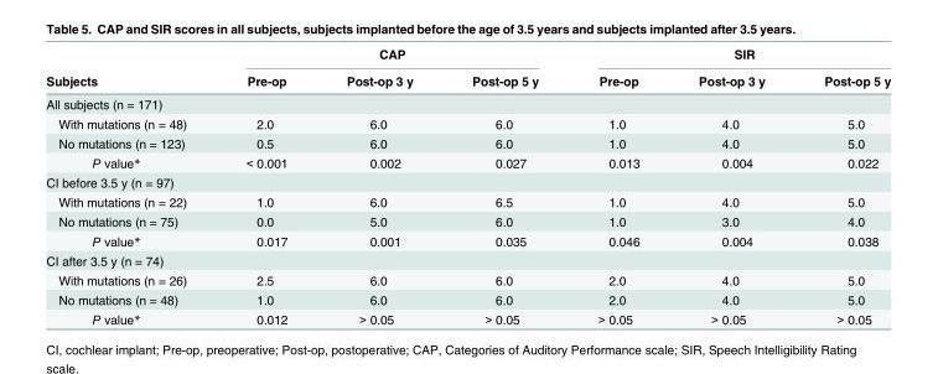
<table><thead><tr><td rowspan="2">Subjects</td><td colspan="3">CAP</td><td colspan="3">SIR</td></tr><tr><td>Pre-op</td><td>Post-op 3 y</td><td>Post-op 5 y</td><td>Pre-op</td><td>Post-op 3 y</td><td>Post-op 5 y</td></tr></thead><tbody><tr><td colspan="7">All subjects (n = 171)</td></tr><tr><td>With mutations (n = 48)</td><td>2.0</td><td>6.0</td><td>6.0</td><td>1.0</td><td>4.0</td><td>5.0</td></tr><tr><td>No mutations (n = 123)</td><td>0.5</td><td>6.0</td><td>6.0</td><td>1.0</td><td>4.0</td><td>5.0</td></tr><tr><td>P value*</td><td>&lt; 0.001</td><td>0.002</td><td>0.027</td><td>0.013</td><td>0.004</td><td>0.022</td></tr><tr><td colspan="7">CI before 3.5 y (n = 97)</td></tr><tr><td>With mutations (n = 22)</td><td>1.0</td><td>6.0</td><td>6.5</td><td>1.0</td><td>4.0</td><td>5.0</td></tr><tr><td>No mutations (n = 75)</td><td>0.0</td><td>5.0</td><td>6.0</td><td>1.0</td><td>3.0</td><td>4.0</td></tr><tr><td>P value*</td><td>0.017</td><td>0.001</td><td>0.035</td><td>0.046</td><td>0.004</td><td>0.038</td></tr><tr><td colspan="7">CI after 3.5 y (n = 74)</td></tr><tr><td>With mutations (n = 26)</td><td>2.5</td><td>6.0</td><td>6.0</td><td>2.0</td><td>4.0</td><td>5.0</td></tr><tr><td>No mutations (n = 48)</td><td>1.0</td><td>6.0</td><td>6.0</td><td>2.0</td><td>4.0</td><td>5.0</td></tr><tr><td>P value*</td><td>0.012</td><td>&gt; 0.05</td><td>&gt; 0.05</td><td>&gt; 0.05</td><td>&gt; 0.05</td><td>&gt; 0.05</td></tr></tbody></table>